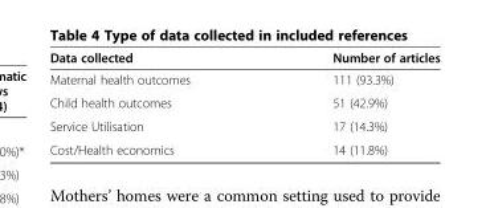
<table><thead><tr><td>Data collected</td><td>Number of articles</td></tr></thead><tbody><tr><td>Maternal health outcomes</td><td>111 (93.3%)</td></tr><tr><td>Child health outcomes</td><td>51 (42.9%)</td></tr><tr><td>Service Utilisation</td><td>17 (14.3%)</td></tr><tr><td>Cost/Health economics</td><td>14 (11.8%)</td></tr></tbody></table>